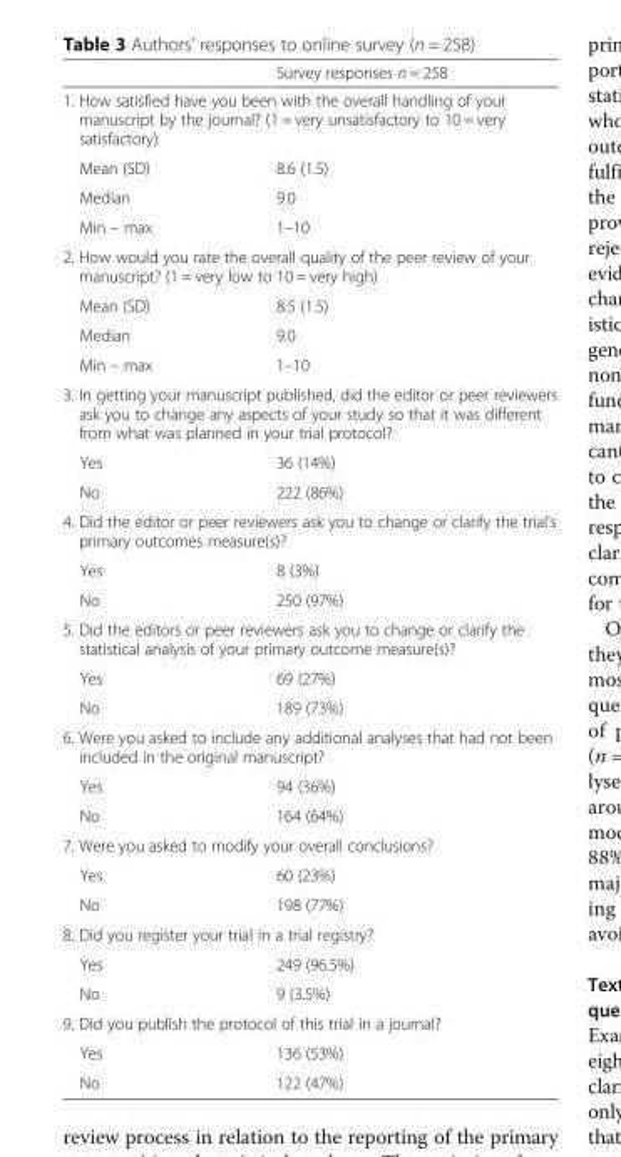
<table><thead><tr><td></td><td>Survey responses n = 258</td></tr></thead><tbody><tr><td colspan="2">1. How satisfied have you been with the overall handling of your manuscript by the journal? (1 = very unsatisfactory to 10 = very satisfactory)</td></tr><tr><td>Mean (SD)</td><td>8.6 (1.5)</td></tr><tr><td>Median</td><td>9.0</td></tr><tr><td>Min – max</td><td>1–10</td></tr><tr><td colspan="2">2. How would you rate the overall quality of the peer review of your manuscript? (1 = very low to 10 = very high)</td></tr><tr><td>Mean (SD)</td><td>8.5 (1.5)</td></tr><tr><td>Median</td><td>9.0</td></tr><tr><td>Min – max</td><td>1–10</td></tr><tr><td colspan="2">3. In getting your manuscript published, did the editor or peer reviewers ask you to change any aspects of your study so that it was different from what was planned in your trial protocol?</td></tr><tr><td>Yes</td><td>36 (14%)</td></tr><tr><td>No</td><td>222 (86%)</td></tr><tr><td colspan="2">4. Did the editor or peer reviewers ask you to change or clarify the trial’s primary outcomes measure(s)?</td></tr><tr><td>Yes</td><td>8 (3%)</td></tr><tr><td>No</td><td>250 (97%)</td></tr><tr><td colspan="2">5. Did the editors or peer reviewers ask you to change or clarify the statistical analysis of your primary outcome measure(s)?</td></tr><tr><td>Yes</td><td>69 (27%)</td></tr><tr><td>No</td><td>189 (73%)</td></tr><tr><td colspan="2">6. Were you asked to include any additional analyses that had not been included in the original manuscript?</td></tr><tr><td>Yes</td><td>94 (36%)</td></tr><tr><td>No</td><td>164 (64%)</td></tr><tr><td colspan="2">7. Were you asked to modify your overall conclusions?</td></tr><tr><td>Yes</td><td>60 (23%)</td></tr><tr><td>No</td><td>198 (77%)</td></tr><tr><td colspan="2">8. Did you register your trial in a trial registry?</td></tr><tr><td>Yes</td><td>249 (96.5%)</td></tr><tr><td>No</td><td>9 (3.5%)</td></tr><tr><td colspan="2">9. Did you publish the protocol of this trial in a journal?</td></tr><tr><td>Yes</td><td>136 (53%)</td></tr><tr><td>No</td><td>122 (47%)</td></tr></tbody></table>